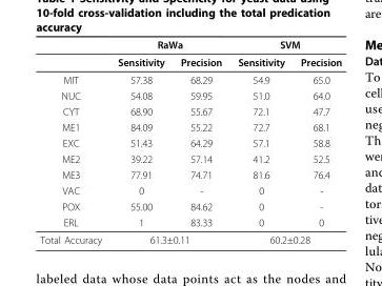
<table><thead><tr><td rowspan="2"></td><td colspan="2">RaWa</td><td colspan="2">SVM</td></tr><tr><td>Sensitivity</td><td>Precision</td><td>Sensitivity</td><td>Precision</td></tr></thead><tbody><tr><td>MIT</td><td>57.38</td><td>68.29</td><td>54.9</td><td>65.0</td></tr><tr><td>NUC</td><td>54.08</td><td>59.95</td><td>51.0</td><td>64.0</td></tr><tr><td>CYT</td><td>68.90</td><td>55.67</td><td>72.1</td><td>47.7</td></tr><tr><td>ME1</td><td>84.09</td><td>55.22</td><td>72.7</td><td>68.1</td></tr><tr><td>EXC</td><td>51.43</td><td>64.29</td><td>57.1</td><td>58.8</td></tr><tr><td>ME2</td><td>39.22</td><td>57.14</td><td>41.2</td><td>52.5</td></tr><tr><td>ME3</td><td>77.91</td><td>74.71</td><td>81.6</td><td>76.4</td></tr><tr><td>VAC</td><td>0</td><td>-</td><td>0</td><td>-</td></tr><tr><td>POX</td><td>55.00</td><td>84.62</td><td>0</td><td>-</td></tr><tr><td>ERL</td><td>1</td><td>83.33</td><td>0</td><td>0</td></tr><tr><td>Total Accuracy</td><td colspan="2">61.3±0.11</td><td colspan="2">60.2±0.28</td></tr></tbody></table>